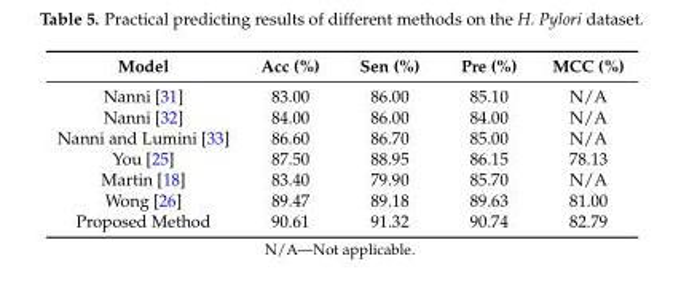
<table><thead><tr><td>Model</td><td>Acc (%)</td><td>Sen (%)</td><td>Pre (%)</td><td>MCC (%)</td></tr></thead><tbody><tr><td>Nanni [31]</td><td>83.00</td><td>86.00</td><td>85.10</td><td>N/A</td></tr><tr><td>Nanni [32]</td><td>84.00</td><td>86.00</td><td>84.00</td><td>N/A</td></tr><tr><td>Nanni and Lumini [33]</td><td>86.60</td><td>86.70</td><td>85.00</td><td>N/A</td></tr><tr><td>You [25]</td><td>87.50</td><td>88.95</td><td>86.15</td><td>78.13</td></tr><tr><td>Martin [18]</td><td>83.40</td><td>79.90</td><td>85.70</td><td>N/A</td></tr><tr><td>Wong [26]</td><td>89.47</td><td>89.18</td><td>89.63</td><td>81.00</td></tr><tr><td>Proposed Method</td><td>90.61</td><td>91.32</td><td>90.74</td><td>82.79</td></tr></tbody></table>